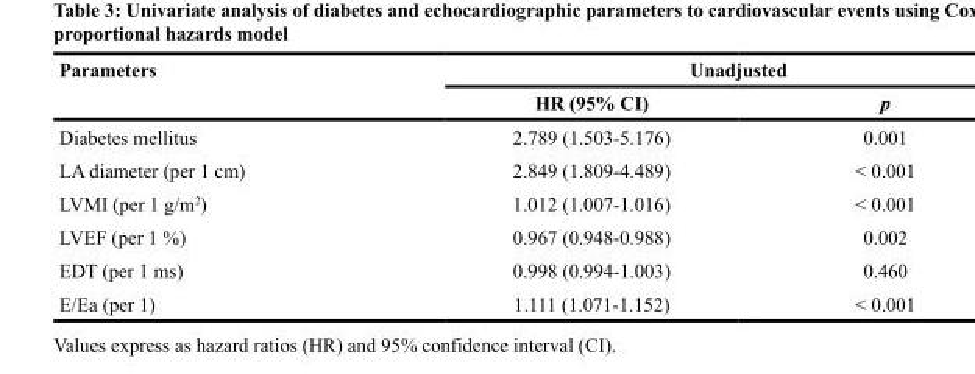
<table><thead><tr><td rowspan="2">Parameters</td><td colspan="2">Unadjusted</td></tr><tr><td>HR (95% CI)</td><td>p</td></tr></thead><tbody><tr><td>Diabetes mellitus</td><td>2.789 (1.503-5.176)</td><td>0.001</td></tr><tr><td>LA diameter (per 1 cm)</td><td>2.849 (1.809-4.489)</td><td>&lt; 0.001</td></tr><tr><td>LVMI (per 1 g/m<sup>2</sup>)</td><td>1.012 (1.007-1.016)</td><td>&lt; 0.001</td></tr><tr><td>LVEF (per 1 %)</td><td>0.967 (0.948-0.988)</td><td>0.002</td></tr><tr><td>EDT (per 1 ms)</td><td>0.998 (0.994-1.003)</td><td>0.460</td></tr><tr><td>E/Ea (per 1)</td><td>1.111 (1.071-1.152)</td><td>&lt; 0.001</td></tr></tbody></table>